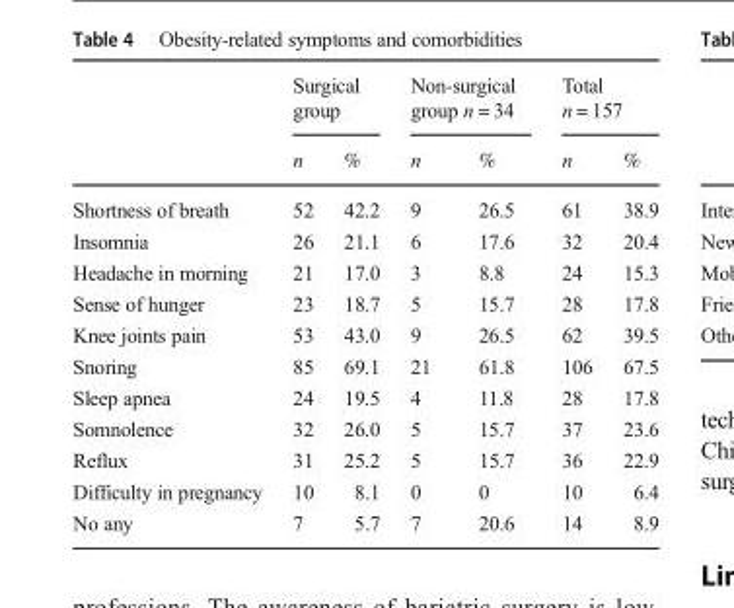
<table><thead><tr><td rowspan="2"></td><td colspan="2">Surgical group</td><td colspan="2">Non-surgical group n = 34</td><td colspan="2">Total n = 157</td></tr><tr><td>n</td><td>%</td><td>n</td><td>%</td><td>n</td><td>%</td></tr></thead><tbody><tr><td>Shortness of breath</td><td>52</td><td>42.2</td><td>9</td><td>26.5</td><td>61</td><td>38.9</td></tr><tr><td>Insomnia</td><td>26</td><td>21.1</td><td>6</td><td>17.6</td><td>32</td><td>20.4</td></tr><tr><td>Headache in morning</td><td>21</td><td>17.0</td><td>3</td><td>8.8</td><td>24</td><td>15.3</td></tr><tr><td>Sense of hunger</td><td>23</td><td>18.7</td><td>5</td><td>15.7</td><td>28</td><td>17.8</td></tr><tr><td>Knee joints pain</td><td>53</td><td>43.0</td><td>9</td><td>26.5</td><td>62</td><td>39.5</td></tr><tr><td>Snoring</td><td>85</td><td>69.1</td><td>21</td><td>61.8</td><td>106</td><td>67.5</td></tr><tr><td>Sleep apnea</td><td>24</td><td>19.5</td><td>4</td><td>11.8</td><td>28</td><td>17.8</td></tr><tr><td>Somnolence</td><td>32</td><td>26.0</td><td>5</td><td>15.7</td><td>37</td><td>23.6</td></tr><tr><td>Reflux</td><td>31</td><td>25.2</td><td>5</td><td>15.7</td><td>36</td><td>22.9</td></tr><tr><td>Difficulty in pregnancy</td><td>10</td><td>8.1</td><td>0</td><td>0</td><td>10</td><td>6.4</td></tr><tr><td>No any</td><td>7</td><td>5.7</td><td>7</td><td>20.6</td><td>14</td><td>8.9</td></tr></tbody></table>